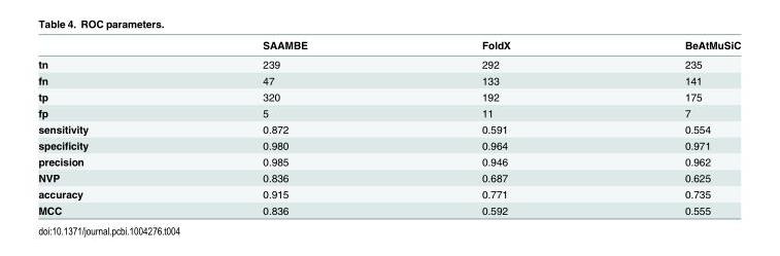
<table><thead><tr><td></td><td>SAAMBE</td><td>FoldX</td><td>BeAtMuSiC</td></tr></thead><tbody><tr><td>tn</td><td>239</td><td>292</td><td>235</td></tr><tr><td>fn</td><td>47</td><td>133</td><td>141</td></tr><tr><td>tp</td><td>320</td><td>192</td><td>175</td></tr><tr><td>fp</td><td>5</td><td>11</td><td>7</td></tr><tr><td>sensitivity</td><td>0.872</td><td>0.591</td><td>0.554</td></tr><tr><td>specificity</td><td>0.980</td><td>0.964</td><td>0.971</td></tr><tr><td>precision</td><td>0.985</td><td>0.946</td><td>0.962</td></tr><tr><td>NVP</td><td>0.836</td><td>0.687</td><td>0.625</td></tr><tr><td>accuracy</td><td>0.915</td><td>0.771</td><td>0.735</td></tr><tr><td>MCC</td><td>0.836</td><td>0.592</td><td>0.555</td></tr></tbody></table>